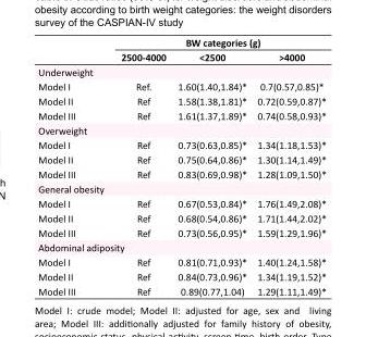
<table><thead><tr><td rowspan="2"></td><td colspan="3">BW categories (g)</td></tr><tr><td>2500-4000</td><td>&lt;2500</td><td>&gt;4000</td></tr></thead><tbody><tr><td colspan="4">Underweight</td></tr><tr><td>Model I</td><td>Ref.</td><td>1.60(1.40,1.84)*</td><td>0.7(0.57,0.85)*</td></tr><tr><td>Model II</td><td>Ref</td><td>1.58(1.38,1.81)*</td><td>0.72(0.59,0.87)*</td></tr><tr><td>Model III</td><td>Ref</td><td>1.61(1.37,1.89)*</td><td>0.74(0.58,0.93)*</td></tr><tr><td colspan="4">Overweight</td></tr><tr><td>Model I</td><td>Ref</td><td>0.73(0.63,0.85)*</td><td>1.34(1.18,1.53)*</td></tr><tr><td>Model II</td><td>Ref</td><td>0.75(0.64,0.86)*</td><td>1.30(1.14,1.49)*</td></tr><tr><td>Model III</td><td>Ref</td><td>0.83(0.69,0.98)*</td><td>1.28(1.09,1.50)*</td></tr><tr><td colspan="4">General obesity</td></tr><tr><td>Model I</td><td>Ref</td><td>0.67(0.53,0.84)*</td><td>1.76(1.49,2.08)*</td></tr><tr><td>Model II</td><td>Ref</td><td>0.68(0.54,0.86)*</td><td>1.71(1.44,2.02)*</td></tr><tr><td>Model III</td><td>Ref</td><td>0.73(0.56,0.95)*</td><td>1.59(1.29,1.96)*</td></tr><tr><td colspan="4">Abdominal adiposity</td></tr><tr><td>Model I</td><td>Ref</td><td>0.81(0.71,0.93)*</td><td>1.40(1.24,1.58)*</td></tr><tr><td>Model II</td><td>Ref</td><td>0.84(0.73,0.96)*</td><td>1.34(1.19,1.52)*</td></tr><tr><td>Model III</td><td>Ref</td><td>0.89(0.77,1.04)</td><td>1.29(1.11,1.49)*</td></tr></tbody></table>